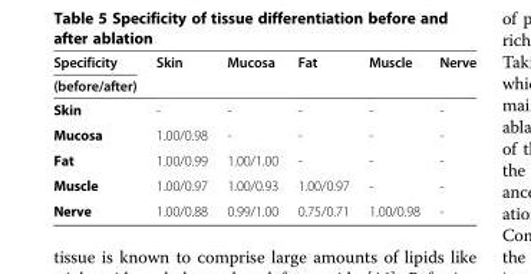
<table><thead><tr><td rowspan="2">Specificity (before/after)</td><td rowspan="2">Skin</td><td rowspan="2">Mucosa</td><td rowspan="2">Fat</td><td rowspan="2">Muscle</td><td rowspan="2">Nerve</td></tr><tr></tr></thead><tbody><tr><td>Skin</td><td>-</td><td>-</td><td>-</td><td>-</td><td>-</td></tr><tr><td>Mucosa</td><td>1.00/0.98</td><td>-</td><td>-</td><td>-</td><td>-</td></tr><tr><td>Fat</td><td>1.00/0.99</td><td>1.00/1.00</td><td>-</td><td>-</td><td>-</td></tr><tr><td>Muscle</td><td>1.00/0.97</td><td>1.00/0.93</td><td>1.00/0.97</td><td>-</td><td>-</td></tr><tr><td>Nerve</td><td>1.00/0.88</td><td>0.99/1.00</td><td>0.75/0.71</td><td>1.00/0.98</td><td>-</td></tr></tbody></table>